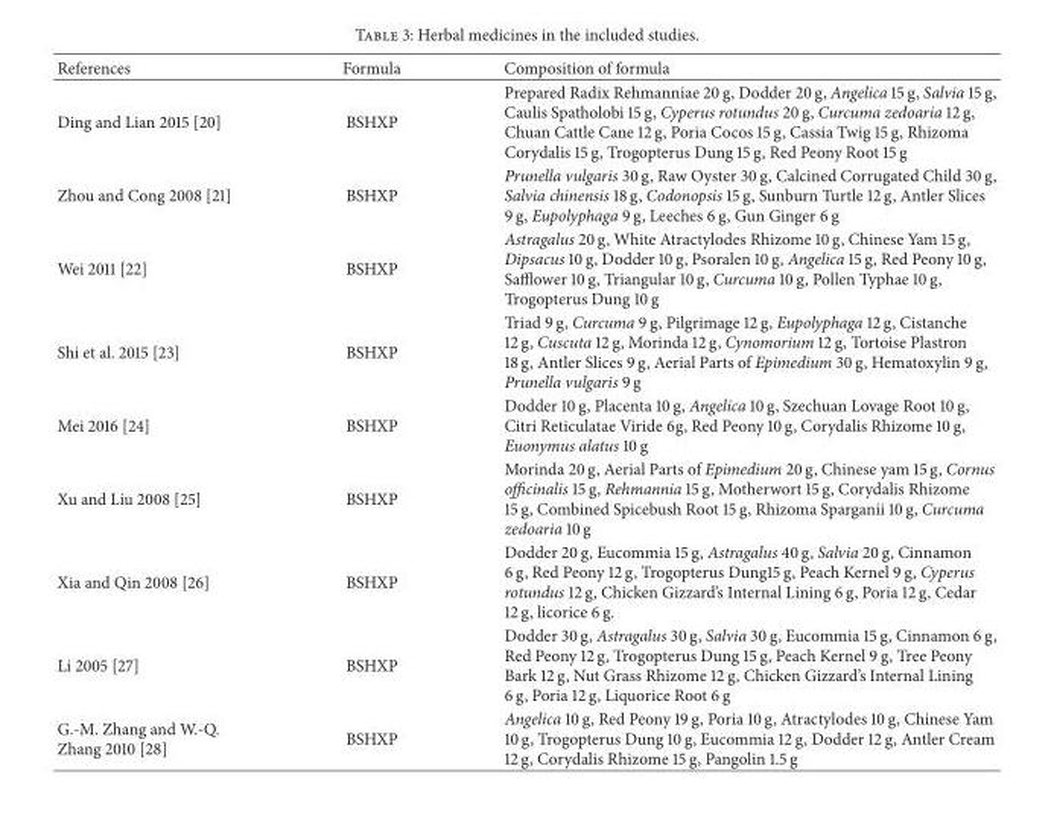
<table><thead><tr><td>References</td><td>Formula</td><td>Composition of formula</td></tr></thead><tbody><tr><td>Ding and Lian 2015 [20]</td><td>BSHXP</td><td>Prepared Radix Rehmanniae 20 g, Dodder 20 g, Angelica 15 g, Salvia 15 g, Caulis Spatholobi 15 g, Cyperus rotundus 20 g, Curcuma zedoaria 12 g, Chuan Cattle Cane 12 g, Poria Cocos 15 g, Cassia Twig 15 g, Rhizoma Corydalis 15 g, Trogopterus Dung 15 g, Red Peony Root 15 g</td></tr><tr><td>Zhou and Cong 2008 [21]</td><td>BSHXP</td><td>Prunella vulgaris 30 g, Raw Oyster 30 g, Calcined Corrugated Child 30 g, Salvia chinensis 18 g, Codonopsis 15 g, Sunburn Turtle 12 g, Antler Slices 9 g, Eupolyphaga 9 g, Leeches 6 g, Gun Ginger 6 g</td></tr><tr><td>Wei 2011 [22]</td><td>BSHXP</td><td>Astragalus 20 g, White Atractylodes Rhizome 10 g, Chinese Yam 15 g, Dipsacus 10 g, Dodder 10 g, Psoralen 10 g, Angelica 15 g, Red Peony 10 g, Safflower 10 g, Triangular 10 g, Curcuma 10 g, Pollen Typhae 10 g, Trogopterus Dung 10 g</td></tr><tr><td>Shi et al. 2015 [23]</td><td>BSHXP</td><td>Triad 9 g, Curcuma 9 g, Pilgrimage 12 g, Eupolyphaga 12 g, Cistanche 12 g, Cuscuta 12 g, Morinda 12 g, Cynomorium 12 g, Tortoise Plastron 18 g, Antler Slices 9 g, Aerial Parts of Epimedium 30 g, Hematoxylin 9 g, Prunella vulgaris 9 g</td></tr><tr><td>Mei 2016 [24]</td><td>BSHXP</td><td>Dodder 10 g, Placenta 10 g, Angelica 10 g, Szechuan Lovage Root 10 g, Citri Reticulatae Viride 6g, Red Peony 10 g, Corydalis Rhizome 10 g, Euonymus alatus 10 g</td></tr><tr><td>Xu and Liu 2008 [25]</td><td>BSHXP</td><td>Morinda 20 g, Aerial Parts of Epimedium 20 g, Chinese yam 15 g, Cornus officinalis 15 g, Rehmannia 15 g, Motherwort 15 g, Corydalis Rhizome 15 g, Combined Spicebush Root 15 g, Rhizoma Sparganii 10 g, Curcuma zedoaria 10 g</td></tr><tr><td>Xia and Qin 2008 [26]</td><td>BSHXP</td><td>Dodder 20 g, Eucommia 15 g, Astragalus 40 g, Salvia 20 g, Cinnamon 6 g, Red Peony 12 g, Trogopterus Dung15 g, Peach Kernel 9 g, Cyperus rotundus 12 g, Chicken Gizzard’s Internal Lining 6 g, Poria 12 g, Cedar 12 g, licorice 6 g.</td></tr><tr><td>Li 2005 [27]</td><td>BSHXP</td><td>Dodder 30 g, Astragalus 30 g, Salvia 30 g, Eucommia 15 g, Cinnamon 6 g, Red Peony 12 g, Trogopterus Dung 15 g, Peach Kernel 9 g, Tree Peony Bark 12 g, Nut Grass Rhizome 12 g, Chicken Gizzard’s Internal Lining 6 g, Poria 12 g, Liquorice Root 6 g</td></tr><tr><td>G.-M. Zhang and W.-Q. Zhang 2010 [28]</td><td>BSHXP</td><td>Angelica 10 g, Red Peony 19 g, Poria 10 g, Atractylodes 10 g, Chinese Yam 10 g, Trogopterus Dung 10 g, Eucommia 12 g, Dodder 12 g, Antler Cream 12 g, Corydalis Rhizome 15 g, Pangolin 1.5 g</td></tr></tbody></table>